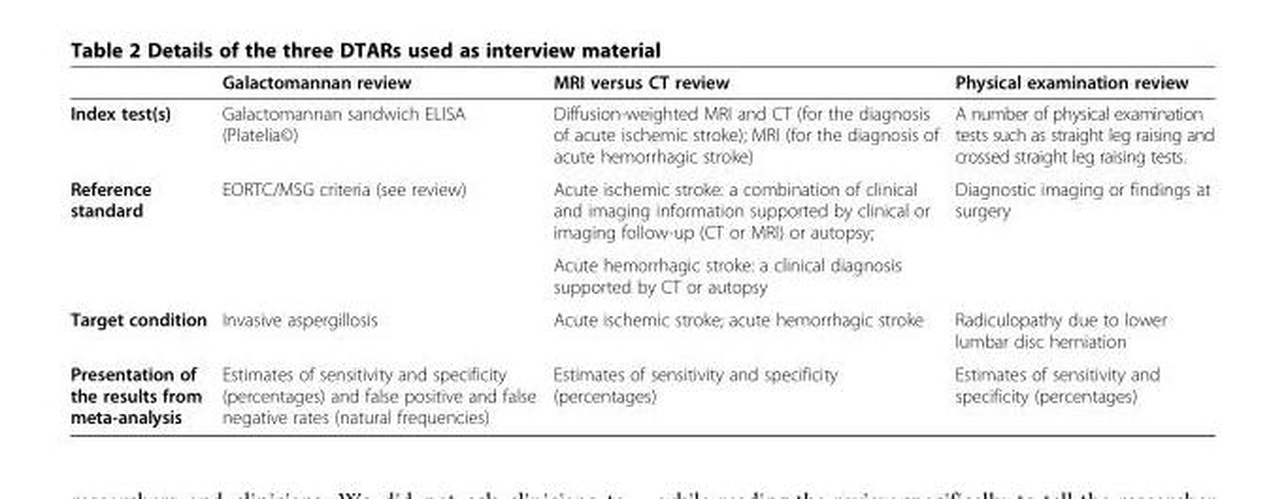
<table><thead><tr><td></td><td>Galactomannan review</td><td>MRI versus CT review</td><td>Physical examination review</td></tr></thead><tbody><tr><td>Index test(s)</td><td>Galactomannan sandwich ELISA (Platelia©)</td><td>Diffusion-weighted MRI and CT (for the diagnosis of acute ischemic stroke); MRI (for the diagnosis of acute hemorrhagic stroke)</td><td>A number of physical examination tests such as straight leg raising and crossed straight leg raising tests.</td></tr><tr><td rowspan="2">Reference standard</td><td rowspan="2">EORTC/MSG criteria (see review)</td><td>Acute ischemic stroke: a combination of clinical and imaging information supported by clinical or imaging follow-up (CT or MRI) or autopsy;</td><td rowspan="2">Diagnostic imaging or findings at surgery</td></tr><tr><td>Acute hemorrhagic stroke: a clinical diagnosis supported by CT or autopsy</td></tr><tr><td>Target condition</td><td>Invasive aspergillosis</td><td>Acute ischemic stroke; acute hemorrhagic stroke</td><td>Radiculopathy due to lower lumbar disc herniation</td></tr><tr><td>Presentation of the results from meta-analysis</td><td>Estimates of sensitivity and specificity (percentages) and false positive and false negative rates (natural frequencies)</td><td>Estimates of sensitivity and specificity (percentages)</td><td>Estimates of sensitivity and specificity (percentages)</td></tr></tbody></table>